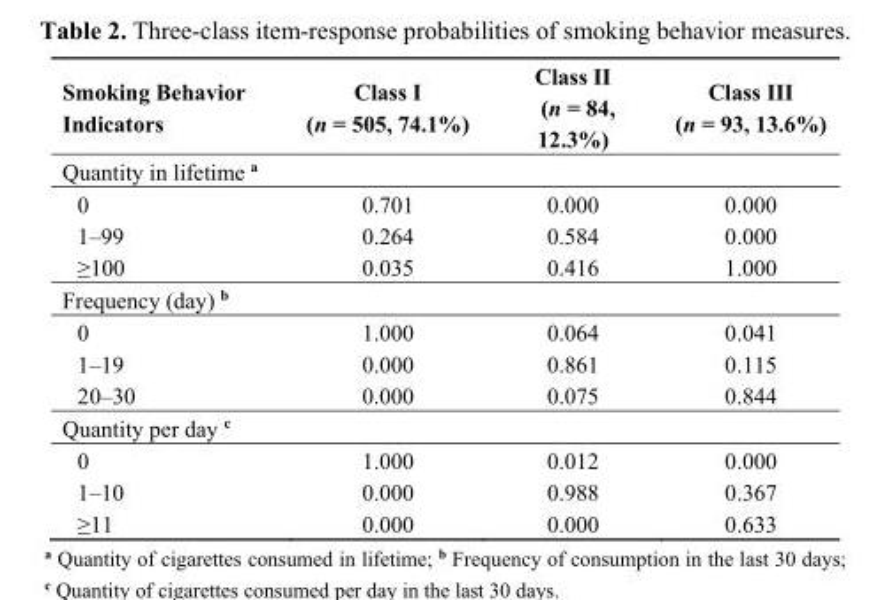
<table><thead><tr><td>Smoking Behavior Indicators</td><td>Class I (n = 505, 74.1%)</td><td>Class II (n = 84, 12.3%)</td><td>Class III (n = 93, 13.6%)</td></tr></thead><tbody><tr><td colspan="4">Quantity in lifetime <sup>a</sup></td></tr><tr><td>0</td><td>0.701</td><td>0.000</td><td>0.000</td></tr><tr><td>1–99</td><td>0.264</td><td>0.584</td><td>0.000</td></tr><tr><td>≥100</td><td>0.035</td><td>0.416</td><td>1.000</td></tr><tr><td colspan="4">Frequency (day) <sup>b</sup></td></tr><tr><td>0</td><td>1.000</td><td>0.064</td><td>0.041</td></tr><tr><td>1–19</td><td>0.000</td><td>0.861</td><td>0.115</td></tr><tr><td>20–30</td><td>0.000</td><td>0.075</td><td>0.844</td></tr><tr><td colspan="4">Quantity per day <sup>c</sup></td></tr><tr><td>0</td><td>1.000</td><td>0.012</td><td>0.000</td></tr><tr><td>1–10</td><td>0.000</td><td>0.988</td><td>0.367</td></tr><tr><td>≥11</td><td>0.000</td><td>0.000</td><td>0.633</td></tr></tbody></table>